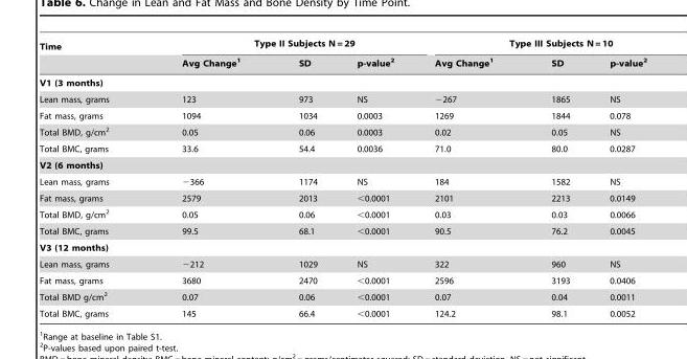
<table><thead><tr><td rowspan="2">Time</td><td colspan="3">Type II Subjects N = 29</td><td colspan="3">Type III Subjects N = 10</td></tr><tr><td>Avg Change<sup>1</sup></td><td>SD</td><td>p-value<sup>2</sup></td><td>Avg Change<sup>1</sup></td><td>SD</td><td>p-value<sup>2</sup></td></tr></thead><tbody><tr><td colspan="7">V1 (3 months)</td></tr><tr><td>Lean mass, grams</td><td>123</td><td>973</td><td>NS</td><td>−267</td><td>1865</td><td>NS</td></tr><tr><td>Fat mass, grams</td><td>1094</td><td>1034</td><td>0.0003</td><td>1269</td><td>1844</td><td>0.078</td></tr><tr><td>Total BMD, g/cm<sup>2</sup></td><td>0.05</td><td>0.06</td><td>0.0003</td><td>0.02</td><td>0.05</td><td>NS</td></tr><tr><td>Total BMC, grams</td><td>33.6</td><td>54.4</td><td>0.0036</td><td>71.0</td><td>80.0</td><td>0.0287</td></tr><tr><td colspan="7">V2 (6 months)</td></tr><tr><td>Lean mass, grams</td><td>−366</td><td>1174</td><td>NS</td><td>184</td><td>1582</td><td>NS</td></tr><tr><td>Fat mass, grams</td><td>2579</td><td>2013</td><td>&lt;0.0001</td><td>2101</td><td>2213</td><td>0.0149</td></tr><tr><td>Total BMD, g/cm<sup>2</sup></td><td>0.05</td><td>0.06</td><td>&lt;0.0001</td><td>0.03</td><td>0.03</td><td>0.0066</td></tr><tr><td>Total BMC, grams</td><td>99.5</td><td>68.1</td><td>&lt;0.0001</td><td>90.5</td><td>76.2</td><td>0.0045</td></tr><tr><td colspan="7">V3 (12 months)</td></tr><tr><td>Lean mass, grams</td><td>−212</td><td>1029</td><td>NS</td><td>322</td><td>960</td><td>NS</td></tr><tr><td>Fat mass, grams</td><td>3680</td><td>2470</td><td>&lt;0.0001</td><td>2596</td><td>3193</td><td>0.0406</td></tr><tr><td>Total BMD g/cm<sup>2</sup></td><td>0.07</td><td>0.06</td><td>&lt;0.0001</td><td>0.07</td><td>0.04</td><td>0.0011</td></tr><tr><td>Total BMC, grams</td><td>145</td><td>66.4</td><td>&lt;0.0001</td><td>124.2</td><td>98.1</td><td>0.0052</td></tr></tbody></table>